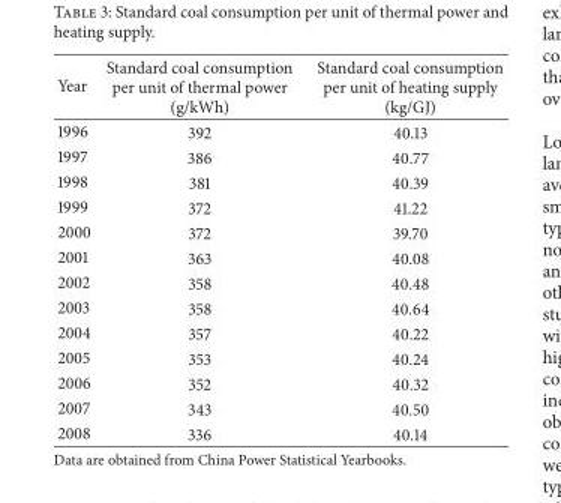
<table><thead><tr><td>Year</td><td>Standard coal consumption per unit of thermal power (g/kWh)</td><td>Standard coal consumption per unit of heating supply (kg/GJ)</td></tr></thead><tbody><tr><td>1996</td><td>392</td><td>40.13</td></tr><tr><td>1997</td><td>386</td><td>40.77</td></tr><tr><td>1998</td><td>381</td><td>40.39</td></tr><tr><td>1999</td><td>372</td><td>41.22</td></tr><tr><td>2000</td><td>372</td><td>39.70</td></tr><tr><td>2001</td><td>363</td><td>40.08</td></tr><tr><td>2002</td><td>358</td><td>40.48</td></tr><tr><td>2003</td><td>358</td><td>40.64</td></tr><tr><td>2004</td><td>357</td><td>40.22</td></tr><tr><td>2005</td><td>353</td><td>40.24</td></tr><tr><td>2006</td><td>352</td><td>40.32</td></tr><tr><td>2007</td><td>343</td><td>40.50</td></tr><tr><td>2008</td><td>336</td><td>40.14</td></tr></tbody></table>